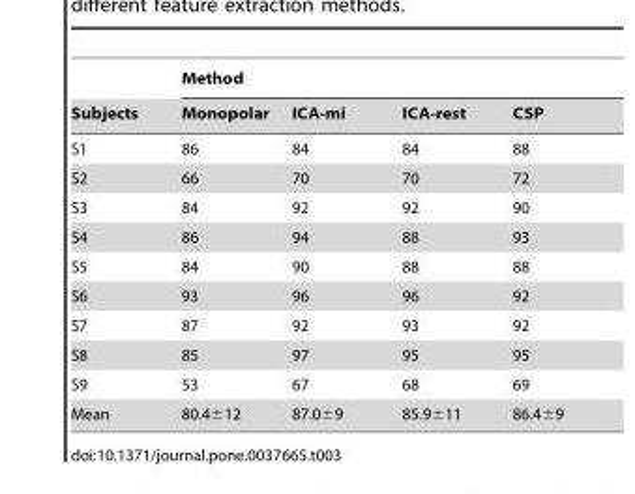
<table><thead><tr><td rowspan="2">Subjects</td><td colspan="4">Method</td></tr><tr><td>Monopolar</td><td>ICA-mi</td><td>ICA-rest</td><td>CSP</td></tr></thead><tbody><tr><td>S1</td><td>86</td><td>84</td><td>84</td><td>88</td></tr><tr><td>S2</td><td>66</td><td>70</td><td>70</td><td>72</td></tr><tr><td>S3</td><td>84</td><td>92</td><td>92</td><td>90</td></tr><tr><td>S4</td><td>86</td><td>94</td><td>88</td><td>93</td></tr><tr><td>S5</td><td>84</td><td>90</td><td>88</td><td>88</td></tr><tr><td>S6</td><td>93</td><td>96</td><td>96</td><td>92</td></tr><tr><td>S7</td><td>87</td><td>92</td><td>93</td><td>92</td></tr><tr><td>S8</td><td>85</td><td>97</td><td>95</td><td>95</td></tr><tr><td>S9</td><td>53</td><td>67</td><td>68</td><td>69</td></tr><tr><td>Mean</td><td>80.4±12</td><td>87.0±9</td><td>85.9±11</td><td>86.4±9</td></tr></tbody></table>